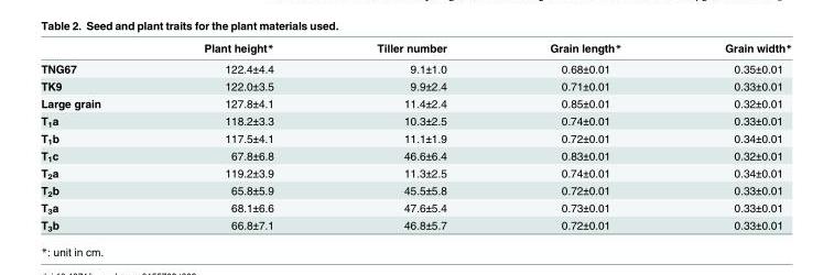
<table><thead><tr><td></td><td>Plant height*</td><td>Tiller number</td><td>Grain length*</td><td>Grain width*</td></tr></thead><tbody><tr><td>TNG67</td><td>122.4±4.4</td><td>9.1±1.0</td><td>0.68±0.01</td><td>0.35±0.01</td></tr><tr><td>TK9</td><td>122.0±3.5</td><td>9.9±2.4</td><td>0.71±0.01</td><td>0.33±0.01</td></tr><tr><td>Large grain</td><td>127.8±4.1</td><td>11.4±2.4</td><td>0.85±0.01</td><td>0.32±0.01</td></tr><tr><td>T<sub>1</sub>a</td><td>118.2±3.3</td><td>10.3±2.5</td><td>0.74±0.01</td><td>0.33±0.01</td></tr><tr><td>T<sub>1</sub>b</td><td>117.5±4.1</td><td>11.1±1.9</td><td>0.72±0.01</td><td>0.34±0.01</td></tr><tr><td>T<sub>1</sub>c</td><td>67.8±6.8</td><td>46.6±6.4</td><td>0.83±0.01</td><td>0.32±0.01</td></tr><tr><td>T<sub>2</sub>a</td><td>119.2±3.9</td><td>11.3±2.5</td><td>0.74±0.01</td><td>0.34±0.01</td></tr><tr><td>T<sub>2</sub>b</td><td>65.8±5.9</td><td>45.5±5.8</td><td>0.72±0.01</td><td>0.33±0.01</td></tr><tr><td>T<sub>3</sub>a</td><td>68.1±6.6</td><td>47.6±5.4</td><td>0.73±0.01</td><td>0.33±0.01</td></tr><tr><td>T<sub>3</sub>b</td><td>66.8±7.1</td><td>46.8±5.7</td><td>0.72±0.01</td><td>0.33±0.01</td></tr></tbody></table>